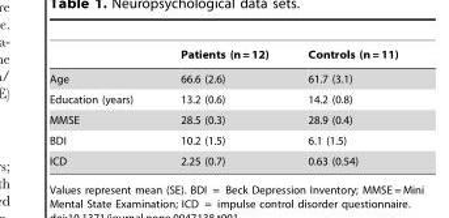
<table><thead><tr><td></td><td>Patients (n = 12)</td><td>Controls (n = 11)</td></tr></thead><tbody><tr><td>Age</td><td>66.6 (2.6)</td><td>61.7 (3.1)</td></tr><tr><td>Education (years)</td><td>13.2 (0.6)</td><td>14.2 (0.8)</td></tr><tr><td>MMSE</td><td>28.5 (0.3)</td><td>28.9 (0.4)</td></tr><tr><td>BDI</td><td>10.2 (1.5)</td><td>6.1 (1.5)</td></tr><tr><td>ICD</td><td>2.25 (0.7)</td><td>0.63 (0.54)</td></tr></tbody></table>